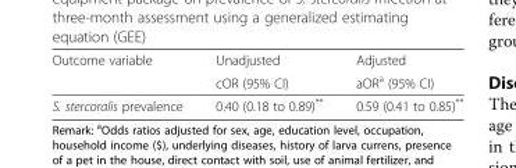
<table><thead><tr><td rowspan="2">Outcome variable</td><td rowspan="2">Unadjusted cOR (95% CI)</td><td rowspan="2">Adjusted aOR<sup>a</sup> (95% CI)</td></tr><tr></tr></thead><tbody><tr><td>S. stercoralis prevalence</td><td>0.40 (0.18 to 0.89)**</td><td>0.59 (0.41 to 0.85)**</td></tr></tbody></table>